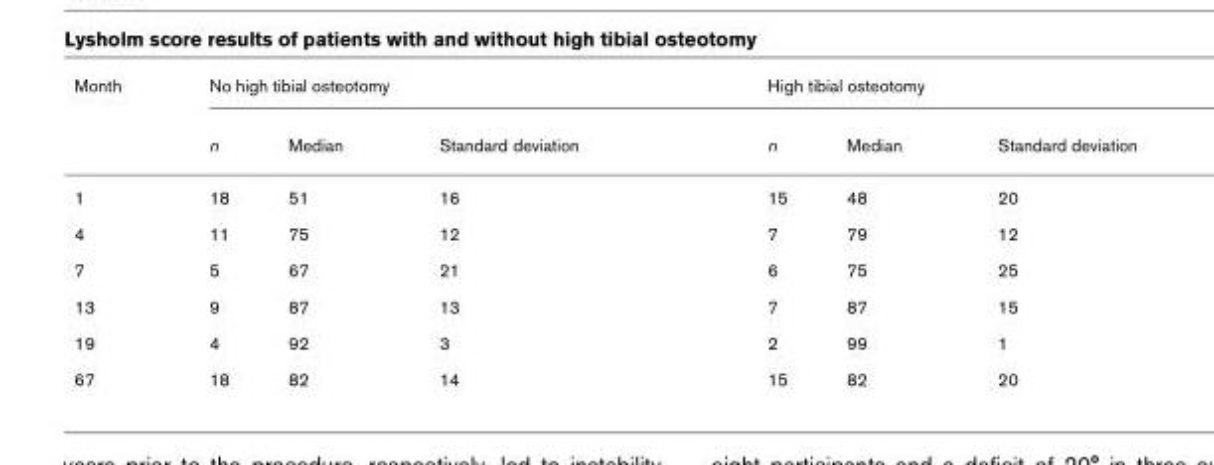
<table><thead><tr><td rowspan="2">Month</td><td colspan="3">No high tibial osteotomy</td><td colspan="3">High tibial osteotomy</td></tr><tr><td>n</td><td>Median</td><td>Standard deviation</td><td>n</td><td>Median</td><td>Standard deviation</td></tr></thead><tbody><tr><td>1</td><td>18</td><td>51</td><td>16</td><td>15</td><td>48</td><td>20</td></tr><tr><td>4</td><td>11</td><td>75</td><td>12</td><td>7</td><td>79</td><td>12</td></tr><tr><td>7</td><td>5</td><td>67</td><td>21</td><td>6</td><td>75</td><td>25</td></tr><tr><td>13</td><td>9</td><td>87</td><td>13</td><td>7</td><td>87</td><td>15</td></tr><tr><td>19</td><td>4</td><td>92</td><td>3</td><td>2</td><td>99</td><td>1</td></tr><tr><td>67</td><td>18</td><td>82</td><td>14</td><td>15</td><td>82</td><td>20</td></tr></tbody></table>